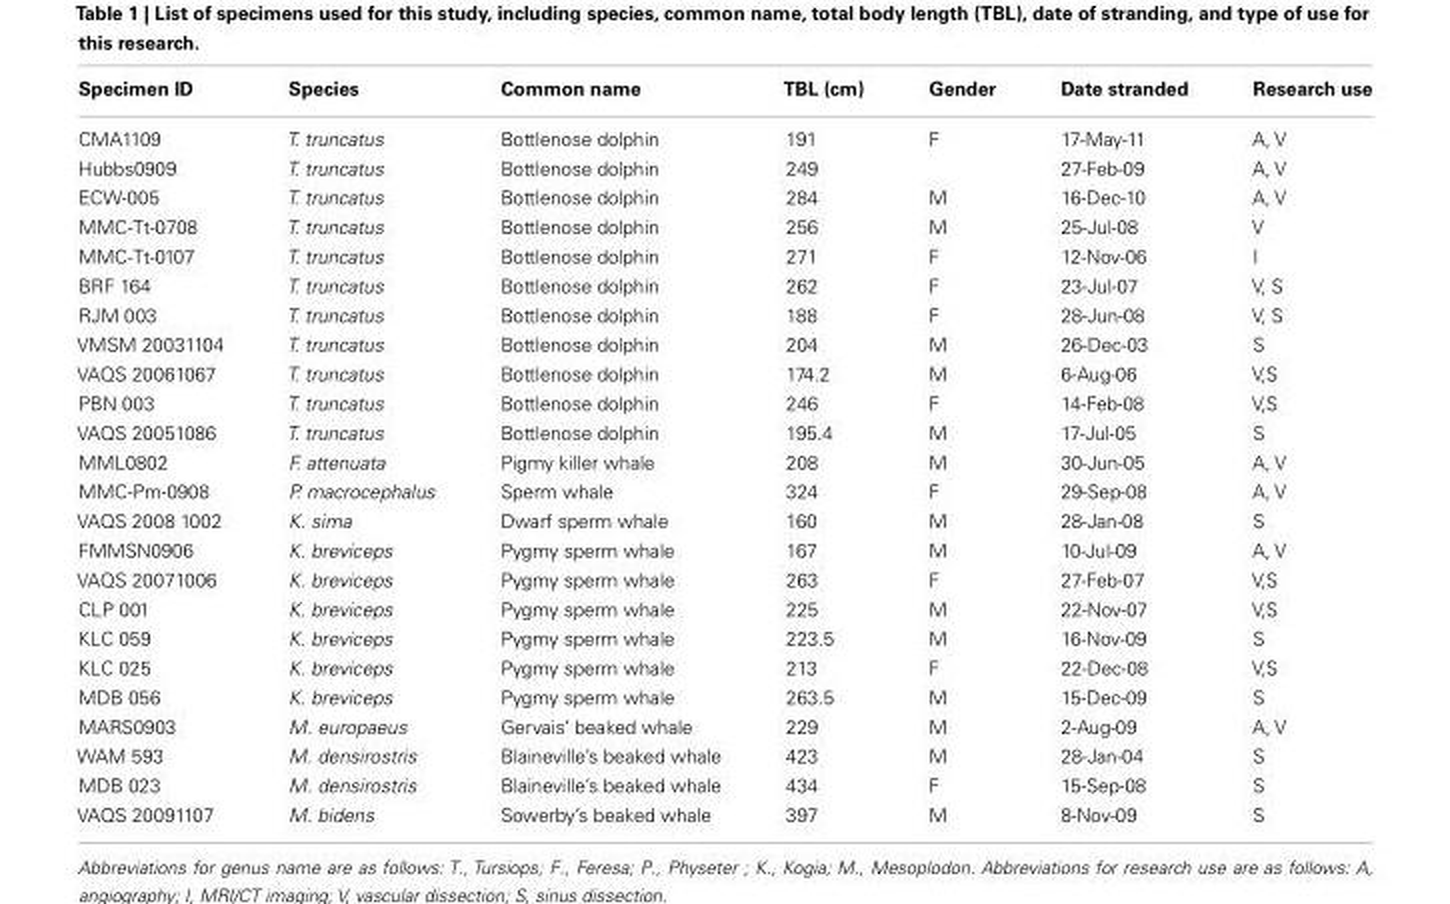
<table><thead><tr><td>Specimen ID</td><td>Species</td><td>Common name</td><td>TBL (cm)</td><td>Gender</td><td>Date stranded</td><td>Research use</td></tr></thead><tbody><tr><td>CMA1109</td><td>T. truncatus</td><td>Bottlenose dolphin</td><td>191</td><td>F</td><td>17-May-11</td><td>A, V</td></tr><tr><td>Hubbs0909</td><td>T. truncatus</td><td>Bottlenose dolphin</td><td>249</td><td></td><td>27-Feb-09</td><td>A, V</td></tr><tr><td>ECW-005</td><td>T. truncatus</td><td>Bottlenose dolphin</td><td>284</td><td>M</td><td>16-Dec-10</td><td>A, V</td></tr><tr><td>MMC-Tt-0708</td><td>T. truncatus</td><td>Bottlenose dolphin</td><td>256</td><td>M</td><td>25-Jul-08</td><td>V</td></tr><tr><td>MMC-Tt-0107</td><td>T. truncatus</td><td>Bottlenose dolphin</td><td>271</td><td>F</td><td>12-Nov-06</td><td>I</td></tr><tr><td>BRF 164</td><td>T. truncatus</td><td>Bottlenose dolphin</td><td>262</td><td>F</td><td>23-Jul-07</td><td>V, S</td></tr><tr><td>RJM 003</td><td>T. truncatus</td><td>Bottlenose dolphin</td><td>188</td><td>F</td><td>28-Jun-08</td><td>V, S</td></tr><tr><td>VMSM 20031104</td><td>T. truncatus</td><td>Bottlenose dolphin</td><td>204</td><td>M</td><td>26-Dec-03</td><td>S</td></tr><tr><td>VAQS 20061067</td><td>T. truncatus</td><td>Bottlenose dolphin</td><td>174.2</td><td>M</td><td>6-Aug-06</td><td>V,S</td></tr><tr><td>PBN 003</td><td>T. truncatus</td><td>Bottlenose dolphin</td><td>246</td><td>F</td><td>14-Feb-08</td><td>V,S</td></tr><tr><td>VAQS 20051086</td><td>T. truncatus</td><td>Bottlenose dolphin</td><td>195.4</td><td>M</td><td>17-Jul-05</td><td>S</td></tr><tr><td>MML0802</td><td>F. attenuata</td><td>Pigmy killer whale</td><td>208</td><td>M</td><td>30-Jun-05</td><td>A, V</td></tr><tr><td>MMC-Pm-0908</td><td>P. macrocephalus</td><td>Sperm whale</td><td>324</td><td>F</td><td>29-Sep-08</td><td>A, V</td></tr><tr><td>VAQS 2008 1002</td><td>K. sima</td><td>Dwarf sperm whale</td><td>160</td><td>M</td><td>28-Jan-08</td><td>S</td></tr><tr><td>FMMSN0906</td><td>K. breviceps</td><td>Pygmy sperm whale</td><td>167</td><td>M</td><td>10-Jul-09</td><td>A, V</td></tr><tr><td>VAQS 20071006</td><td>K. breviceps</td><td>Pygmy sperm whale</td><td>263</td><td>F</td><td>27-Feb-07</td><td>V,S</td></tr><tr><td>CLP 001</td><td>K. breviceps</td><td>Pygmy sperm whale</td><td>225</td><td>M</td><td>22-Nov-07</td><td>V,S</td></tr><tr><td>KLC 059</td><td>K. breviceps</td><td>Pygmy sperm whale</td><td>223.5</td><td>M</td><td>16-Nov-09</td><td>S</td></tr><tr><td>KLC 025</td><td>K. breviceps</td><td>Pygmy sperm whale</td><td>213</td><td>F</td><td>22-Dec-08</td><td>V,S</td></tr><tr><td>MDB 056</td><td>K. breviceps</td><td>Pygmy sperm whale</td><td>263.5</td><td>M</td><td>15-Dec-09</td><td>S</td></tr><tr><td>MARS0903</td><td>M. europaeus</td><td>Gervais’ beaked whale</td><td>229</td><td>M</td><td>2-Aug-09</td><td>A, V</td></tr><tr><td>WAM 593</td><td>M. densirostris</td><td>Blaineville’s beaked whale</td><td>423</td><td>M</td><td>28-Jan-04</td><td>S</td></tr><tr><td>MDB 023</td><td>M. densirostris</td><td>Blaineville’s beaked whale</td><td>434</td><td>F</td><td>15-Sep-08</td><td>S</td></tr><tr><td>VAQS 20091107</td><td>M. bidens</td><td>Sowerby’s beaked whale</td><td>397</td><td>M</td><td>8-Nov-09</td><td>S</td></tr></tbody></table>